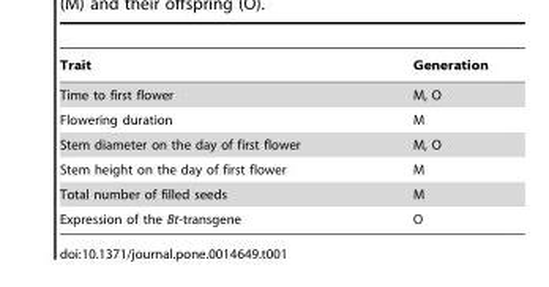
<table><thead><tr><td>Trait</td><td>Generation</td></tr></thead><tbody><tr><td>Time to first flower</td><td>M, O</td></tr><tr><td>Flowering duration</td><td>M</td></tr><tr><td>Stem diameter on the day of first flower</td><td>M, O</td></tr><tr><td>Stem height on the day of first flower</td><td>M</td></tr><tr><td>Total number of filled seeds</td><td>M</td></tr><tr><td>Expression of the Bt-transgene</td><td>O</td></tr></tbody></table>